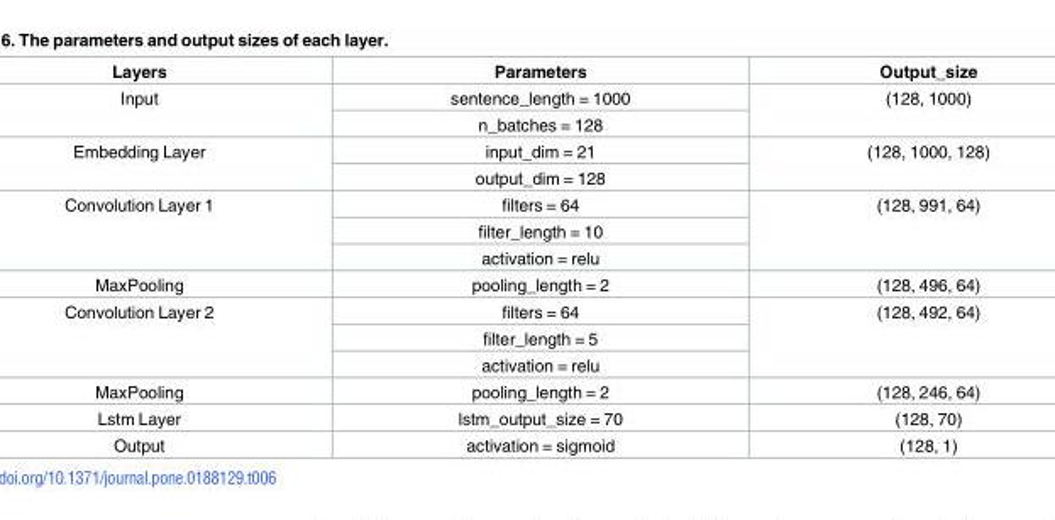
<table><thead><tr><td>Layers</td><td>Parameters</td><td>Output_size</td></tr></thead><tbody><tr><td rowspan="2">Input</td><td>sentence_length = 1000</td><td rowspan="2">(128, 1000)</td></tr><tr><td>n_batches = 128</td></tr><tr><td rowspan="2">Embedding Layer</td><td>input_dim = 21</td><td rowspan="2">(128, 1000, 128)</td></tr><tr><td>output_dim = 128</td></tr><tr><td rowspan="3">Convolution Layer 1</td><td>filters = 64</td><td rowspan="3">(128, 991, 64)</td></tr><tr><td>filter_length = 10</td></tr><tr><td>activation = relu</td></tr><tr><td>MaxPooling</td><td>pooling_length = 2</td><td>(128, 496, 64)</td></tr><tr><td rowspan="3">Convolution Layer 2</td><td>filters = 64</td><td rowspan="3">(128, 492, 64)</td></tr><tr><td>filter_length = 5</td></tr><tr><td>activation = relu</td></tr><tr><td>MaxPooling</td><td>pooling_length = 2</td><td>(128, 246, 64)</td></tr><tr><td>Lstm Layer</td><td>lstm_output_size = 70</td><td>(128, 70)</td></tr><tr><td>Output</td><td>activation = sigmoid</td><td>(128, 1)</td></tr></tbody></table>